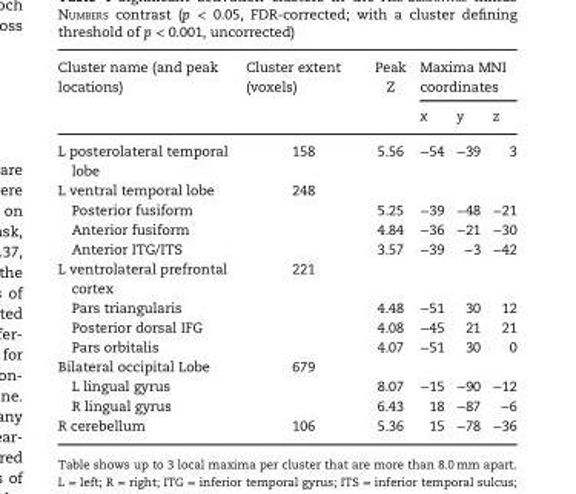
<table><thead><tr><td rowspan="2">Cluster name (and peak locations)</td><td rowspan="2">Cluster extent (voxels)</td><td rowspan="2">Peak Z</td><td colspan="3">Maxima MNI coordinates</td></tr><tr><td>x</td><td>y</td><td>z</td></tr></thead><tbody><tr><td>L posterolateral temporal lobe</td><td>158</td><td>5.56</td><td>−54</td><td>−39</td><td>3</td></tr><tr><td>L ventral temporal lobe</td><td>248</td><td></td><td></td><td></td><td></td></tr><tr><td>Posterior fusiform</td><td></td><td>5.25</td><td>−39</td><td>−48</td><td>−21</td></tr><tr><td>Anterior fusiform</td><td></td><td>4.84</td><td>−36</td><td>−21</td><td>−30</td></tr><tr><td>Anterior ITG/ITS</td><td></td><td>3.57</td><td>−39</td><td>−3</td><td>−42</td></tr><tr><td>L ventrolateral prefrontal cortex</td><td>221</td><td></td><td></td><td></td><td></td></tr><tr><td>Pars triangularis</td><td></td><td>4.48</td><td>−51</td><td>30</td><td>12</td></tr><tr><td>Posterior dorsal IFG</td><td></td><td>4.08</td><td>−45</td><td>21</td><td>21</td></tr><tr><td>Pars orbitalis</td><td></td><td>4.07</td><td>−51</td><td>30</td><td>0</td></tr><tr><td>Bilateral occipital Lobe</td><td>679</td><td></td><td></td><td></td><td></td></tr><tr><td>L lingual gyrus</td><td></td><td>8.07</td><td>−15</td><td>−90</td><td>−12</td></tr><tr><td>R lingual gyrus</td><td></td><td>6.43</td><td>18</td><td>−87</td><td>−6</td></tr><tr><td>R cerebellum</td><td>106</td><td>5.36</td><td>15</td><td>−78</td><td>−36</td></tr></tbody></table>